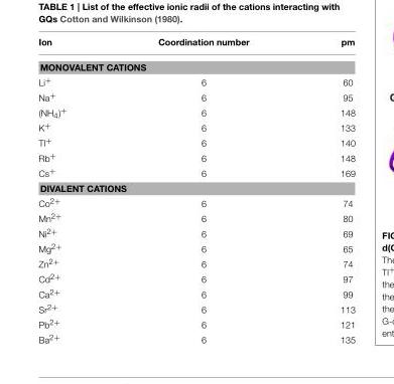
<table><thead><tr><td>Ion</td><td>Coordination number</td><td>pm</td></tr></thead><tbody><tr><td colspan="3">MONOVALENT CATIONS</td></tr><tr><td>Li<sup>+</sup></td><td>6</td><td>60</td></tr><tr><td>Na<sup>+</sup></td><td>6</td><td>95</td></tr><tr><td>(NH4)<sup>+</sup></td><td>6</td><td>148</td></tr><tr><td>K<sup>+</sup></td><td>6</td><td>133</td></tr><tr><td>Tl<sup>+</sup></td><td>6</td><td>140</td></tr><tr><td>Rb<sup>+</sup></td><td>6</td><td>148</td></tr><tr><td>Cs<sup>+</sup></td><td>6</td><td>169</td></tr><tr><td colspan="3">DIVALENT CATIONS</td></tr><tr><td>Co2<sup>+</sup></td><td>6</td><td>74</td></tr><tr><td>Mn2<sup>+</sup></td><td>6</td><td>80</td></tr><tr><td>Ni2<sup>+</sup></td><td>6</td><td>69</td></tr><tr><td>Mg2<sup>+</sup></td><td>6</td><td>65</td></tr><tr><td>Zn2<sup>+</sup></td><td>6</td><td>74</td></tr><tr><td>Cd2<sup>+</sup></td><td>6</td><td>97</td></tr><tr><td>Ca2<sup>+</sup></td><td>6</td><td>99</td></tr><tr><td>Sr2<sup>+</sup></td><td>6</td><td>113</td></tr><tr><td>Pb2<sup>+</sup></td><td>6</td><td>121</td></tr><tr><td>Ba2<sup>+</sup></td><td>6</td><td>135</td></tr></tbody></table>